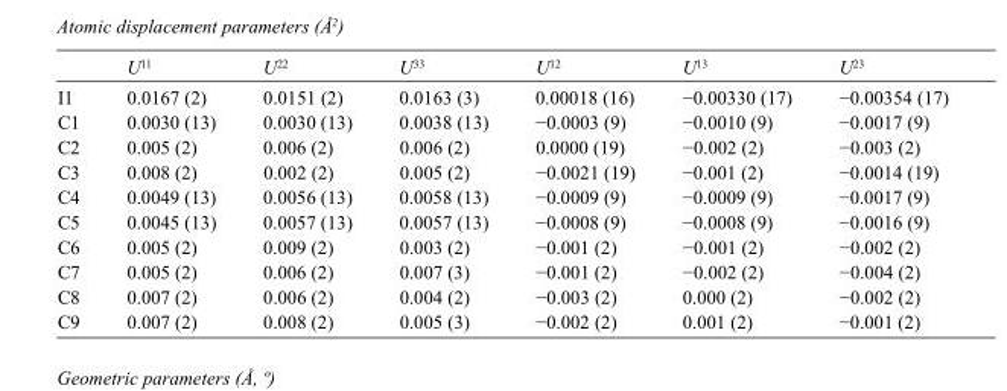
<table><thead><tr><td></td><td>U<sup>11</sup></td><td>U<sup>22</sup></td><td>U<sup>33</sup></td><td>U<sup>12</sup></td><td>U<sup>13</sup></td><td>U<sup>23</sup></td></tr></thead><tbody><tr><td>I1</td><td>0.0167 (2)</td><td>0.0151 (2)</td><td>0.0163 (3)</td><td>0.00018 (16)</td><td>−0.00330 (17)</td><td>−0.00354 (17)</td></tr><tr><td>C1</td><td>0.0030 (13)</td><td>0.0030 (13)</td><td>0.0038 (13)</td><td>−0.0003 (9)</td><td>−0.0010 (9)</td><td>−0.0017 (9)</td></tr><tr><td>C2</td><td>0.005 (2)</td><td>0.006 (2)</td><td>0.006 (2)</td><td>0.0000 (19)</td><td>−0.002 (2)</td><td>−0.003 (2)</td></tr><tr><td>C3</td><td>0.008 (2)</td><td>0.002 (2)</td><td>0.005 (2)</td><td>−0.0021 (19)</td><td>−0.001 (2)</td><td>−0.0014 (19)</td></tr><tr><td>C4</td><td>0.0049 (13)</td><td>0.0056 (13)</td><td>0.0058 (13)</td><td>−0.0009 (9)</td><td>−0.0009 (9)</td><td>−0.0017 (9)</td></tr><tr><td>C5</td><td>0.0045 (13)</td><td>0.0057 (13)</td><td>0.0057 (13)</td><td>−0.0008 (9)</td><td>−0.0008 (9)</td><td>−0.0016 (9)</td></tr><tr><td>C6</td><td>0.005 (2)</td><td>0.009 (2)</td><td>0.003 (2)</td><td>−0.001 (2)</td><td>−0.001 (2)</td><td>−0.002 (2)</td></tr><tr><td>C7</td><td>0.005 (2)</td><td>0.006 (2)</td><td>0.007 (3)</td><td>−0.001 (2)</td><td>−0.002 (2)</td><td>−0.004 (2)</td></tr><tr><td>C8</td><td>0.007 (2)</td><td>0.006 (2)</td><td>0.004 (2)</td><td>−0.003 (2)</td><td>0.000 (2)</td><td>−0.002 (2)</td></tr><tr><td>C9</td><td>0.007 (2)</td><td>0.008 (2)</td><td>0.005 (3)</td><td>−0.002 (2)</td><td>0.001 (2)</td><td>−0.001 (2)</td></tr></tbody></table>